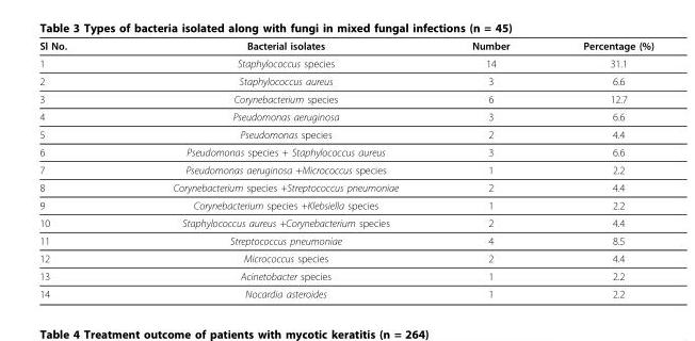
<table><thead><tr><td>Sl No.</td><td>Bacterial isolates</td><td>Number</td><td>Percentage (%)</td></tr></thead><tbody><tr><td>1</td><td>Staphylococcus species</td><td>14</td><td>31.1</td></tr><tr><td>2</td><td>Staphylococcus aureus</td><td>3</td><td>6.6</td></tr><tr><td>3</td><td>Corynebacterium species</td><td>6</td><td>12.7</td></tr><tr><td>4</td><td>Pseudomonas aeruginosa</td><td>3</td><td>6.6</td></tr><tr><td>5</td><td>Pseudomonas species</td><td>2</td><td>4.4</td></tr><tr><td>6</td><td>Pseudomonas species + Staphylococcus aureus</td><td>3</td><td>6.6</td></tr><tr><td>7</td><td>Pseudomonas aeruginosa +Micrococcus species</td><td>1</td><td>2.2</td></tr><tr><td>8</td><td>Corynebacterium species +Streptococcus pneumoniae</td><td>2</td><td>4.4</td></tr><tr><td>9</td><td>Corynebacterium species +Klebsiella species</td><td>1</td><td>2.2</td></tr><tr><td>10</td><td>Staphylococcus aureus +Corynebacterium species</td><td>2</td><td>4.4</td></tr><tr><td>11</td><td>Streptococcus pneumoniae</td><td>4</td><td>8.5</td></tr><tr><td>12</td><td>Micrococcus species</td><td>2</td><td>4.4</td></tr><tr><td>13</td><td>Acinetobacter species</td><td>1</td><td>2.2</td></tr><tr><td>14</td><td>Nocardia asteroides</td><td>1</td><td>2.2</td></tr></tbody></table>